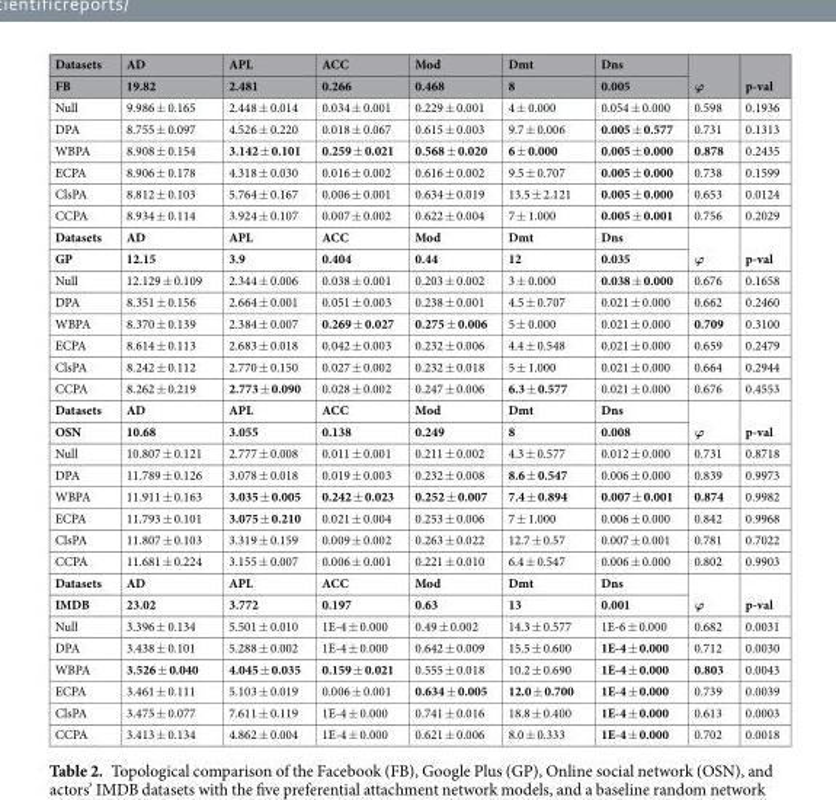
<table><thead><tr><td rowspan="2">Datasets FB</td><td rowspan="2">AD 19.82</td><td rowspan="2">APL 2.481</td><td rowspan="2">ACC 0.266</td><td rowspan="2">Mod 0.468</td><td rowspan="2">Dmt 8</td><td rowspan="2">Dns 0.005</td><td rowspan="2">ϕ</td><td rowspan="2">p-val</td></tr><tr></tr></thead><tbody><tr><td>Null</td><td>9.986 ± 0.165</td><td>2.448 ± 0.014</td><td>0.034 ± 0.001</td><td>0.229 ± 0.001</td><td>4 ± 0.000</td><td>0.054 ± 0.000</td><td>0.598</td><td>0.1936</td></tr><tr><td>DPA</td><td>8.755 ± 0.097</td><td>4.526 ± 0.220</td><td>0.018 ± 0.067</td><td>0.615 ± 0.003</td><td>9.7 ± 0.006</td><td>0.005 ± 0.577</td><td>0.731</td><td>0.1313</td></tr><tr><td>WBPA</td><td>8.908 ± 0.154</td><td>3.142 ± 0.101</td><td>0.259 ± 0.021</td><td>0.568 ± 0.020</td><td>6 ± 0.000</td><td>0.005 ± 0.000</td><td>0.878</td><td>0.2435</td></tr><tr><td>ECPA</td><td>8.906 ± 0.178</td><td>4.318 ± 0.030</td><td>0.016 ± 0.002</td><td>0.616 ± 0.002</td><td>9.5 ± 0.707</td><td>0.005 ± 0.000</td><td>0.738</td><td>0.1599</td></tr><tr><td>ClsPA</td><td>8.812 ± 0.103</td><td>5.764 ± 0.167</td><td>0.006 ± 0.001</td><td>0.634 ± 0.019</td><td>13.5 ± 2.121</td><td>0.005 ± 0.000</td><td>0.653</td><td>0.0124</td></tr><tr><td>CCPA</td><td>8.934 ± 0.114</td><td>3.924 ± 0.107</td><td>0.007 ± 0.002</td><td>0.622 ± 0.004</td><td>7 ± 1.000</td><td>0.005 ± 0.001</td><td>0.756</td><td>0.2029</td></tr><tr><td>Datasets</td><td>AD</td><td>APL</td><td>ACC</td><td>Mod</td><td>Dmt</td><td>Dns</td><td rowspan="2">ϕ</td><td rowspan="2">p-val</td></tr><tr><td>GP</td><td>12.15</td><td>3.9</td><td>0.404</td><td>0.44</td><td>12</td><td>0.035</td></tr><tr><td>Null</td><td>12.129 ± 0.109</td><td>2.344 ± 0.006</td><td>0.038 ± 0.001</td><td>0.203 ± 0.002</td><td>3 ± 0.000</td><td>0.038 ± 0.000</td><td>0.676</td><td>0.1658</td></tr><tr><td>DPA</td><td>8.351 ± 0.156</td><td>2.664 ± 0.001</td><td>0.051 ± 0.003</td><td>0.238 ± 0.001</td><td>4.5 ± 0.707</td><td>0.021 ± 0.000</td><td>0.662</td><td>0.2460</td></tr><tr><td>WBPA</td><td>8.370 ± 0.139</td><td>2.384 ± 0.007</td><td>0.269 ± 0.027</td><td>0.275 ± 0.006</td><td>5 ± 0.000</td><td>0.021 ± 0.000</td><td>0.709</td><td>0.3100</td></tr><tr><td>ECPA</td><td>8.614 ± 0.113</td><td>2.683 ± 0.018</td><td>0.042 ± 0.003</td><td>0.232 ± 0.006</td><td>4.4 ± 0.548</td><td>0.021 ± 0.000</td><td>0.659</td><td>0.2479</td></tr><tr><td>ClsPA</td><td>8.242 ± 0.112</td><td>2.770 ± 0.150</td><td>0.027 ± 0.002</td><td>0.232 ± 0.018</td><td>5 ± 1.000</td><td>0.021 ± 0.000</td><td>0.664</td><td>0.2944</td></tr><tr><td>CCPA</td><td>8.262 ± 0.219</td><td>2.773 ± 0.090</td><td>0.028 ± 0.002</td><td>0.247 ± 0.006</td><td>6.3 ± 0.577</td><td>0.021 ± 0.000</td><td>0.676</td><td>0.4553</td></tr><tr><td>Datasets</td><td>AD</td><td>APL</td><td>ACC</td><td>Mod</td><td>Dmt</td><td>Dns</td><td rowspan="2">ϕ</td><td rowspan="2">p-val</td></tr><tr><td>OSN</td><td>10.68</td><td>3.055</td><td>0.138</td><td>0.249</td><td>8</td><td>0.008</td></tr><tr><td>Null</td><td>10.807 ± 0.121</td><td>2.777 ± 0.008</td><td>0.011 ± 0.001</td><td>0.211 ± 0.002</td><td>4.3 ± 0.577</td><td>0.012 ± 0.000</td><td>0.731</td><td>0.8718</td></tr><tr><td>DPA</td><td>11.789 ± 0.126</td><td>3.078 ± 0.018</td><td>0.019 ± 0.003</td><td>0.232 ± 0.008</td><td>8.6 ± 0.547</td><td>0.006 ± 0.000</td><td>0.839</td><td>0.9973</td></tr><tr><td>WBPA</td><td>11.911 ± 0.163</td><td>3.035 ± 0.005</td><td>0.242 ± 0.023</td><td>0.252 ± 0.007</td><td>7.4 ± 0.894</td><td>0.007 ± 0.001</td><td>0.874</td><td>0.9982</td></tr><tr><td>ECPA</td><td>11.793 ± 0.101</td><td>3.075 ± 0.210</td><td>0.021 ± 0.004</td><td>0.253 ± 0.006</td><td>7 ± 1.000</td><td>0.006 ± 0.000</td><td>0.842</td><td>0.9968</td></tr><tr><td>ClsPA</td><td>11.807 ± 0.103</td><td>3.319 ± 0.159</td><td>0.009 ± 0.002</td><td>0.263 ± 0.022</td><td>12.7 ± 0.57</td><td>0.007 ± 0.001</td><td>0.781</td><td>0.7022</td></tr><tr><td>CCPA</td><td>11.681 ± 0.224</td><td>3.155 ± 0.007</td><td>0.006 ± 0.001</td><td>0.221 ± 0.010</td><td>6.4 ± 0.547</td><td>0.006 ± 0.000</td><td>0.802</td><td>0.9903</td></tr><tr><td>Datasets</td><td>AD</td><td>APL</td><td>ACC</td><td>Mod</td><td>Dmt</td><td>Dns</td><td rowspan="2">ϕ</td><td rowspan="2">p-val</td></tr><tr><td>IMDB</td><td>23.02</td><td>3.772</td><td>0.197</td><td>0.63</td><td>13</td><td>0.001</td></tr><tr><td>Null</td><td>3.396 ± 0.134</td><td>5.501 ± 0.010</td><td>1E-4 ± 0.000</td><td>0.49 ± 0.002</td><td>14.3 ± 0.577</td><td>1E-6 ± 0.000</td><td>0.682</td><td>0.0031</td></tr><tr><td>DPA</td><td>3.438 ± 0.101</td><td>5.288 ± 0.002</td><td>1E-4 ± 0.000</td><td>0.642 ± 0.009</td><td>15.5 ± 0.600</td><td>1E-4 ± 0.000</td><td>0.712</td><td>0.0030</td></tr><tr><td>WBPA</td><td>3.526 ± 0.040</td><td>4.045 ± 0.035</td><td>0.159 ± 0.021</td><td>0.555 ± 0.018</td><td>10.2 ± 0.690</td><td>1E-4 ± 0.000</td><td>0.803</td><td>0.0043</td></tr><tr><td>ECPA</td><td>3.461 ± 0.111</td><td>5.103 ± 0.019</td><td>0.006 ± 0.001</td><td>0.634 ± 0.005</td><td>12.0 ± 0.700</td><td>1E-4 ± 0.000</td><td>0.739</td><td>0.0039</td></tr><tr><td>ClsPA</td><td>3.475 ± 0.077</td><td>7.611 ± 0.119</td><td>1E-4 ± 0.000</td><td>0.741 ± 0.016</td><td>18.8 ± 0.400</td><td>1E-4 ± 0.000</td><td>0.613</td><td>0.0003</td></tr><tr><td>CCPA</td><td>3.413 ± 0.134</td><td>4.862 ± 0.004</td><td>1E-4 ± 0.000</td><td>0.621 ± 0.006</td><td>8.0 ± 0.333</td><td>1E-4 ± 0.000</td><td>0.702</td><td>0.0018</td></tr></tbody></table>